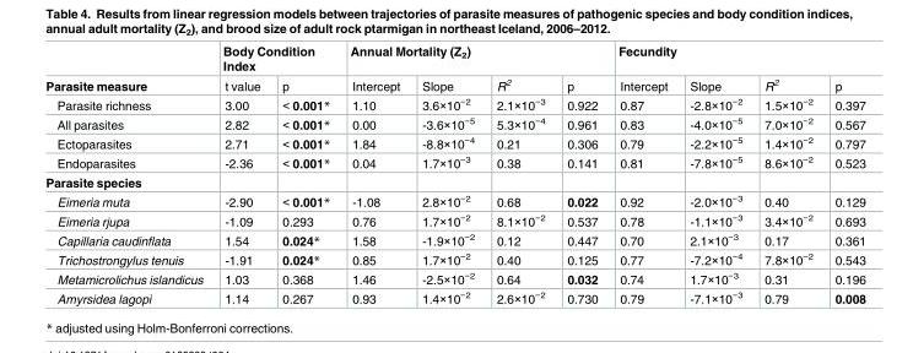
<table><thead><tr><td rowspan="2">Parasite measure</td><td colspan="2">Body Condition Index</td><td colspan="4">Annual Mortality (Z<sub>2</sub>)</td><td colspan="4">Fecundity</td></tr><tr><td>t value</td><td>p</td><td>Intercept</td><td>Slope</td><td>R<sup>2</sup></td><td>p</td><td>Intercept</td><td>Slope</td><td>R<sup>2</sup></td><td>p</td></tr></thead><tbody><tr><td>Parasite richness</td><td>3.00</td><td>&lt; 0.001*</td><td>1.10</td><td>3.6×10<sup>−2</sup></td><td>2.1×10<sup>−3</sup></td><td>0.922</td><td>0.87</td><td>-2.8×10<sup>−2</sup></td><td>1.5×10<sup>−2</sup></td><td>0.397</td></tr><tr><td>All parasites</td><td>2.82</td><td>&lt; 0.001*</td><td>0.00</td><td>-3.6×10<sup>−5</sup></td><td>5.3×10<sup>−4</sup></td><td>0.961</td><td>0.83</td><td>-4.0×10<sup>−5</sup></td><td>7.0×10<sup>−2</sup></td><td>0.567</td></tr><tr><td>Ectoparasites</td><td>2.71</td><td>&lt; 0.001*</td><td>1.84</td><td>-8.8×10<sup>−4</sup></td><td>0.21</td><td>0.306</td><td>0.79</td><td>-2.2×10<sup>−5</sup></td><td>1.4×10<sup>−2</sup></td><td>0.797</td></tr><tr><td>Endoparasites</td><td>-2.36</td><td>&lt; 0.001*</td><td>0.04</td><td>1.7×10<sup>−3</sup></td><td>0.38</td><td>0.141</td><td>0.81</td><td>-7.8×10<sup>−5</sup></td><td>8.6×10<sup>−2</sup></td><td>0.523</td></tr><tr><td colspan="11">Parasite species</td></tr><tr><td>Eimeria muta</td><td>-2.90</td><td>&lt; 0.001*</td><td>-1.08</td><td>2.8×10<sup>−2</sup></td><td>0.68</td><td>0.022</td><td>0.92</td><td>-2.0×10<sup>−3</sup></td><td>0.40</td><td>0.129</td></tr><tr><td>Eimeria rjupa</td><td>-1.09</td><td>0.293</td><td>0.76</td><td>1.7×10<sup>−2</sup></td><td>8.1×10<sup>−2</sup></td><td>0.537</td><td>0.78</td><td>-1.1×10<sup>−3</sup></td><td>3.4×10<sup>−2</sup></td><td>0.693</td></tr><tr><td>Capillaria caudinflata</td><td>1.54</td><td>0.024*</td><td>1.58</td><td>-1.9×10<sup>−2</sup></td><td>0.12</td><td>0.447</td><td>0.70</td><td>2.1×10<sup>−3</sup></td><td>0.17</td><td>0.361</td></tr><tr><td>Trichostrongylus tenuis</td><td>-1.91</td><td>0.024*</td><td>0.85</td><td>1.7×10<sup>−2</sup></td><td>0.40</td><td>0.125</td><td>0.77</td><td>-7.2×10<sup>−4</sup></td><td>7.8×10<sup>−2</sup></td><td>0.543</td></tr><tr><td>Metamicrolichus islandicus</td><td>1.03</td><td>0.368</td><td>1.46</td><td>-2.5×10<sup>−2</sup></td><td>0.64</td><td>0.032</td><td>0.74</td><td>1.7×10<sup>−3</sup></td><td>0.31</td><td>0.196</td></tr><tr><td>Amyrsidea lagopi</td><td>1.14</td><td>0.267</td><td>0.93</td><td>1.4×10<sup>−2</sup></td><td>2.6×10<sup>−2</sup></td><td>0.730</td><td>0.79</td><td>-7.1×10<sup>−3</sup></td><td>0.79</td><td>0.008</td></tr></tbody></table>